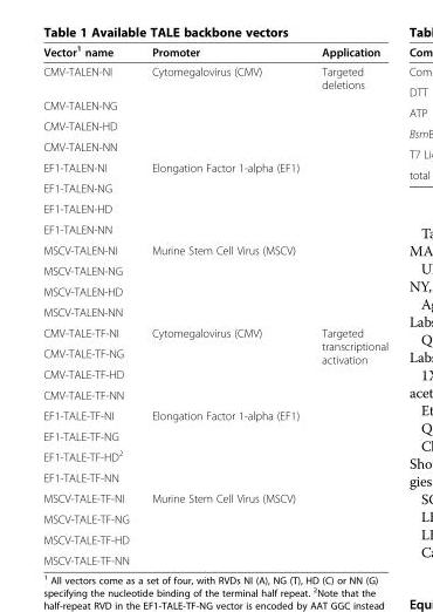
<table><thead><tr><td>Vector<sup>1</sup> name</td><td>Promoter</td><td>Application</td></tr></thead><tbody><tr><td>CMV-TALEN-NI</td><td>Cytomegalovirus (CMV)</td><td>Targeted deletions</td></tr><tr><td>CMV-TALEN-NG</td><td rowspan="3"></td><td rowspan="11"></td></tr><tr><td>CMV-TALEN-HD</td></tr><tr><td>CMV-TALEN-NN</td></tr><tr><td>EF1-TALEN-NI</td><td>Elongation Factor 1-alpha (EF1)</td></tr><tr><td>EF1-TALEN-NG</td><td rowspan="3"></td></tr><tr><td>EF1-TALEN-HD</td></tr><tr><td>EF1-TALEN-NN</td></tr><tr><td>MSCV-TALEN-NI</td><td>Murine Stem Cell Virus (MSCV)</td></tr><tr><td>MSCV-TALEN-NG</td><td rowspan="3"></td></tr><tr><td>MSCV-TALEN-HD</td></tr><tr><td>MSCV-TALEN-NN</td></tr><tr><td>CMV-TALE-TF-NI</td><td>Cytomegalovirus (CMV)</td><td rowspan="5">Targeted transcriptional activation</td></tr><tr><td>CMV-TALE-TF-NG</td><td rowspan="3"></td></tr><tr><td>CMV-TALE-TF-HD</td></tr><tr><td>CMV-TALE-TF-NN</td></tr><tr><td>EF1-TALE-TF-NI</td><td>Elongation Factor 1-alpha (EF1)</td></tr><tr><td>EF1-TALE-TF-NG</td><td rowspan="3"></td><td rowspan="4"></td></tr><tr><td>EF1-TALE-TF-HD<sup>2</sup></td></tr><tr><td>EF1-TALE-TF-NN</td></tr><tr><td>MSCV-TALE-TF-NI</td><td>Murine Stem Cell Virus (MSCV)</td></tr><tr><td>MSCV-TALE-TF-NG</td><td rowspan="3"></td><td rowspan="3"></td></tr><tr><td>MSCV-TALE-TF-HD</td></tr><tr><td>MSCV-TALE-TF-NN</td></tr></tbody></table>